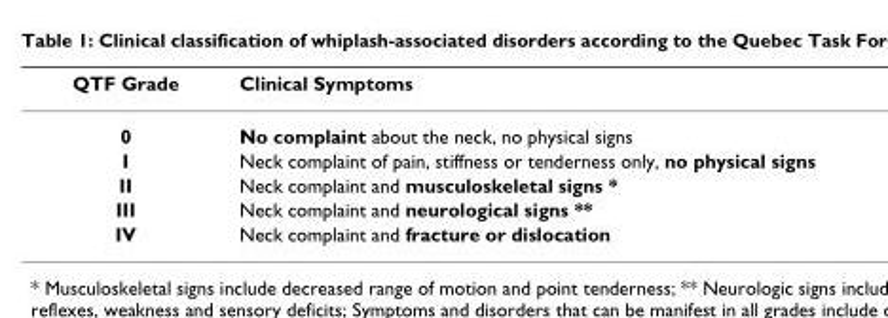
<table><thead><tr><td>QTF Grade</td><td>Clinical Symptoms</td></tr></thead><tbody><tr><td>0</td><td>No complaint about the neck, no physical signs</td></tr><tr><td>I</td><td>Neck complaint of pain, stiffness or tenderness only, no physical signs</td></tr><tr><td>II</td><td>Neck complaint and musculoskeletal signs *</td></tr><tr><td>III</td><td>Neck complaint and neurological signs **</td></tr><tr><td>IV</td><td>Neck complaint and fracture or dislocation</td></tr></tbody></table>